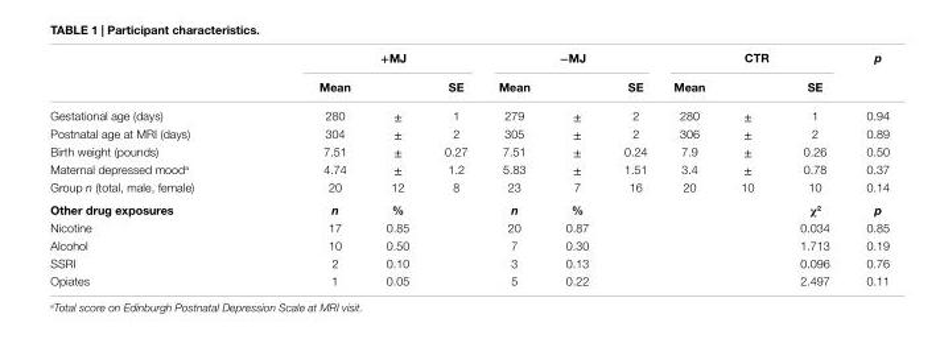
<table><thead><tr><td rowspan="2"></td><td colspan="3">+MJ</td><td colspan="3">−MJ</td><td colspan="3">cTr</td><td rowspan="2">p</td></tr><tr><td>Mean</td><td></td><td>se</td><td>Mean</td><td></td><td>se</td><td>Mean</td><td></td><td>se</td></tr></thead><tbody><tr><td>Gestational age (days)</td><td>280</td><td>±</td><td>1</td><td>279</td><td>±</td><td>2</td><td>280</td><td>±</td><td>1</td><td>0.94</td></tr><tr><td>Postnatal age at MRI (days)</td><td>304</td><td>±</td><td>2</td><td>305</td><td>±</td><td>2</td><td>306</td><td>±</td><td>2</td><td>0.89</td></tr><tr><td>Birth weight (pounds)</td><td>7.51</td><td>±</td><td>0.27</td><td>7.51</td><td>±</td><td>0.24</td><td>7.9</td><td>±</td><td>0.26</td><td>0.50</td></tr><tr><td>Maternal depressed mood<sup>a</sup></td><td>4.74</td><td>±</td><td>1.2</td><td>5.83</td><td>±</td><td>1.51</td><td>3.4</td><td>±</td><td>0.78</td><td>0.37</td></tr><tr><td>Group n (total, male, female)</td><td>20</td><td>12</td><td>8</td><td>23</td><td>7</td><td>16</td><td>20</td><td>10</td><td>10</td><td>0.14</td></tr><tr><td>Other drug exposures</td><td>n</td><td>%</td><td></td><td>n</td><td>%</td><td></td><td></td><td></td><td>χ<sup>2</sup></td><td>p</td></tr><tr><td>Nicotine</td><td>17</td><td>0.85</td><td></td><td>20</td><td>0.87</td><td></td><td></td><td></td><td>0.034</td><td>0.85</td></tr><tr><td>Alcohol</td><td>10</td><td>0.50</td><td></td><td>7</td><td>0.30</td><td></td><td></td><td></td><td>1.713</td><td>0.19</td></tr><tr><td>SSRI</td><td>2</td><td>0.10</td><td></td><td>3</td><td>0.13</td><td></td><td></td><td></td><td>0.096</td><td>0.76</td></tr><tr><td>Opiates</td><td>1</td><td>0.05</td><td></td><td>5</td><td>0.22</td><td></td><td></td><td></td><td>2.497</td><td>0.11</td></tr></tbody></table>